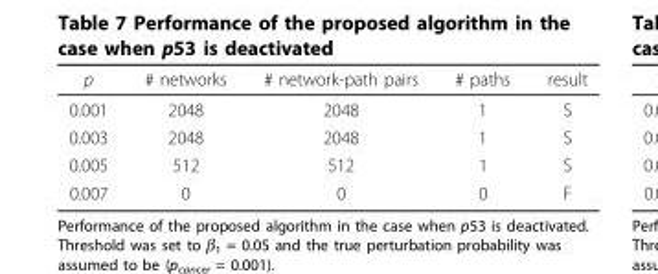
<table><thead><tr><td>p</td><td># networks</td><td># network-path pairs</td><td># paths</td><td>result</td></tr></thead><tbody><tr><td>0.001</td><td>2048</td><td>2048</td><td>1</td><td>S</td></tr><tr><td>0.003</td><td>2048</td><td>2048</td><td>1</td><td>S</td></tr><tr><td>0.005</td><td>512</td><td>512</td><td>1</td><td>S</td></tr><tr><td>0.007</td><td>0</td><td>0</td><td>0</td><td>F</td></tr></tbody></table>